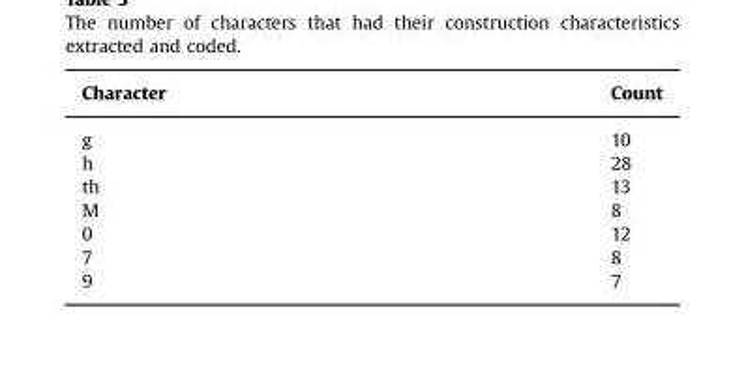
<table><thead><tr><td>Character</td><td>Count</td></tr></thead><tbody><tr><td>g</td><td>10</td></tr><tr><td>h</td><td>28</td></tr><tr><td>th</td><td>13</td></tr><tr><td>M</td><td>8</td></tr><tr><td>0</td><td>12</td></tr><tr><td>7</td><td>8</td></tr><tr><td>9</td><td>7</td></tr></tbody></table>